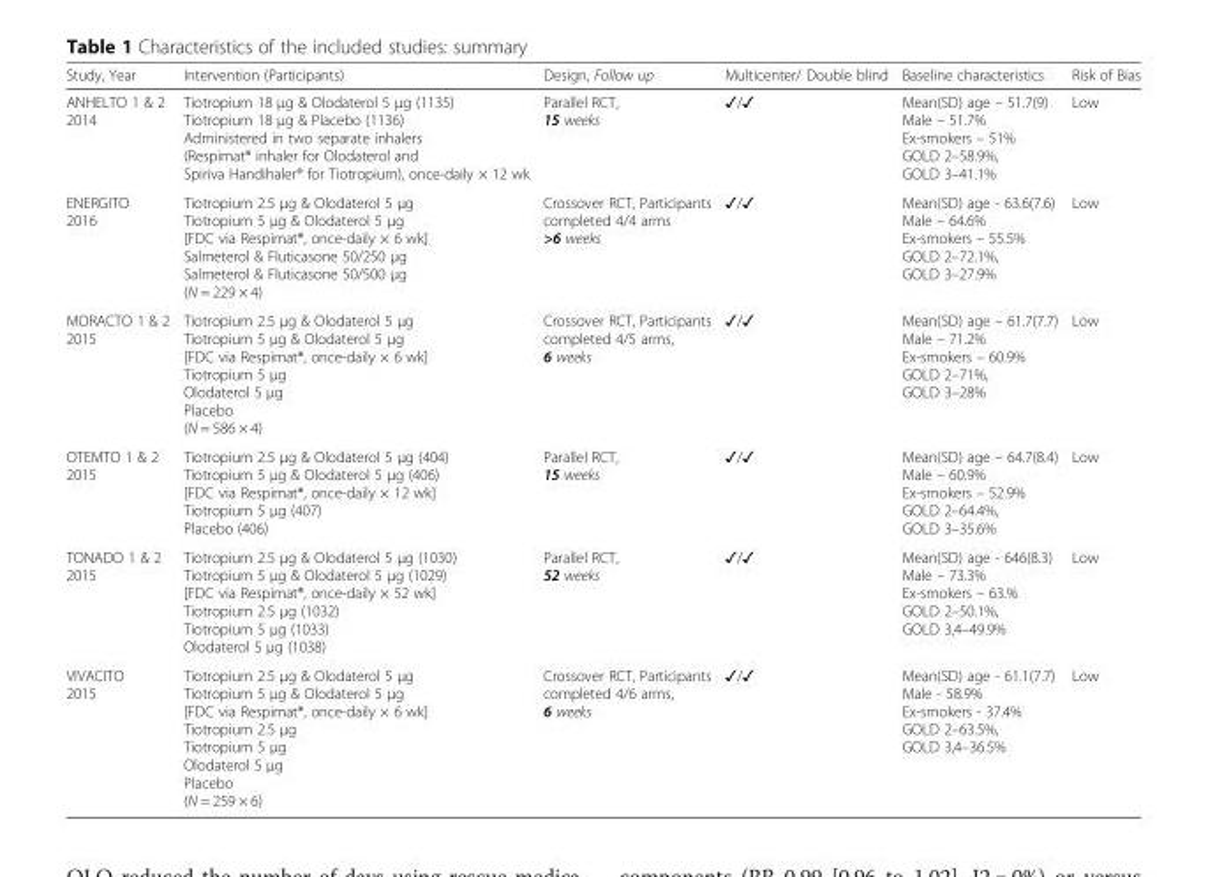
<table><thead><tr><td>Study, Year</td><td>Intervention (Participants)</td><td>Design, Follow up</td><td>Multicenter/ Double blind</td><td>Baseline characteristics</td><td>Risk of Bias</td></tr></thead><tbody><tr><td>ANHELTO 1 &amp; 2 2014</td><td>Tiotropium 18 μg &amp; Olodaterol 5 μg (1135) Tiotropium 18 μg &amp; Placebo (1136) Administered in two separate inhalers (Respimat® inhaler for Olodaterol and Spiriva Handihaler® for Tiotropium), once-daily × 12 wk</td><td>Parallel RCT, 15 weeks</td><td>✓/✓</td><td>Mean(SD) age – 51.7(9) Male – 51.7% Ex-smokers – 51% GOLD 2–58.9%, GOLD 3–41.1%</td><td>Low</td></tr><tr><td>ENERGITO 2016</td><td>Tiotropium 2.5 μg &amp; Olodaterol 5 μg Tiotropium 5 μg &amp; Olodaterol 5 μg [FDC via Respimat®, once-daily × 6 wk] Salmeterol &amp; Fluticasone 50/250 μg Salmeterol &amp; Fluticasone 50/500 μg (N = 229 × 4)</td><td>Crossover RCT, Participants completed 4/4 arms &gt;6 weeks</td><td>✓/✓</td><td>Mean(SD) age - 63.6(7.6) Male – 64.6% Ex-smokers – 55.5% GOLD 2–72.1%, GOLD 3–27.9%</td><td>Low</td></tr><tr><td>MORACTO 1 &amp; 2 2015</td><td>Tiotropium 2.5 μg &amp; Olodaterol 5 μg Tiotropium 5 μg &amp; Olodaterol 5 μg [FDC via Respimat®, once-daily × 6 wk] Tiotropium 5 μg Olodaterol 5 μg Placebo (N = 586 × 4)</td><td>Crossover RCT, Participants completed 4/5 arms, 6 weeks</td><td>✓/✓</td><td>Mean(SD) age – 61.7(7.7) Male – 71.2% Ex-smokers – 60.9% GOLD 2–71%, GOLD 3–28%</td><td>Low</td></tr><tr><td>OTEMTO 1 &amp; 2 2015</td><td>Tiotropium 2.5 μg &amp; Olodaterol 5 μg (404) Tiotropium 5 μg &amp; Olodaterol 5 μg (406) [FDC via Respimat®, once-daily × 12 wk] Tiotropium 5 μg (407) Placebo (406)</td><td>Parallel RCT, 15 weeks</td><td>✓/✓</td><td>Mean(SD) age – 64.7(8.4) Male – 60.9% Ex-smokers – 52.9% GOLD 2–64.4%, GOLD 3–35.6%</td><td>Low</td></tr><tr><td>TONADO 1 &amp; 2 2015</td><td>Tiotropium 2.5 μg &amp; Olodaterol 5 μg (1030) Tiotropium 5 μg &amp; Olodaterol 5 μg (1029) [FDC via Respimat®, once-daily × 52 wk] Tiotropium 2.5 μg (1032) Tiotropium 5 μg (1033) Olodaterol 5 μg (1038)</td><td>Parallel RCT, 52 weeks</td><td>✓/✓</td><td>Mean(SD) age - 646(8.3) Male – 73.3% Ex-smokers – 63.% GOLD 2–50.1%, GOLD 3,4–49.9%</td><td>Low</td></tr><tr><td>VIVACITO 2015</td><td>Tiotropium 2.5 μg &amp; Olodaterol 5 μg Tiotropium 5 μg &amp; Olodaterol 5 μg [FDC via Respimat®, once-daily × 6 wk] Tiotropium 2.5 μg Tiotropium 5 μg Olodaterol 5 μg Placebo (N = 259 × 6)</td><td>Crossover RCT, Participants completed 4/6 arms, 6 weeks</td><td>✓/✓</td><td>Mean(SD) age - 61.1(7.7) Male - 58.9% Ex-smokers - 37.4% GOLD 2–63.5%, GOLD 3,4–36.5%</td><td>Low</td></tr></tbody></table>